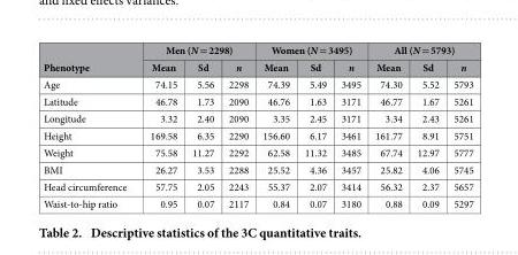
<table><thead><tr><td rowspan="2">Phenotype</td><td colspan="3">Men (N = 2298)</td><td colspan="3">Women (N = 3495)</td><td colspan="3">All (N = 5793)</td></tr><tr><td>Mean</td><td>Sd</td><td>n</td><td>Mean</td><td>Sd</td><td>n</td><td>Mean</td><td>Sd</td><td>n</td></tr></thead><tbody><tr><td>Age</td><td>74.15</td><td>5.56</td><td>2298</td><td>74.39</td><td>5.49</td><td>3495</td><td>74.30</td><td>5.52</td><td>5793</td></tr><tr><td>Latitude</td><td>46.78</td><td>1.73</td><td>2090</td><td>46.76</td><td>1.63</td><td>3171</td><td>46.77</td><td>1.67</td><td>5261</td></tr><tr><td>Longitude</td><td>3.32</td><td>2.40</td><td>2090</td><td>3.35</td><td>2.45</td><td>3171</td><td>3.34</td><td>2.43</td><td>5261</td></tr><tr><td>Height</td><td>169.58</td><td>6.35</td><td>2290</td><td>156.60</td><td>6.17</td><td>3461</td><td>161.77</td><td>8.91</td><td>5751</td></tr><tr><td>Weight</td><td>75.58</td><td>11.27</td><td>2292</td><td>62.58</td><td>11.32</td><td>3485</td><td>67.74</td><td>12.97</td><td>5777</td></tr><tr><td>BMI</td><td>26.27</td><td>3.53</td><td>2288</td><td>25.52</td><td>4.36</td><td>3457</td><td>25.82</td><td>4.06</td><td>5745</td></tr><tr><td>Head circumference</td><td>57.75</td><td>2.05</td><td>2243</td><td>55.37</td><td>2.07</td><td>3414</td><td>56.32</td><td>2.37</td><td>5657</td></tr><tr><td>Waist-to-hip ratio</td><td>0.95</td><td>0.07</td><td>2117</td><td>0.84</td><td>0.07</td><td>3180</td><td>0.88</td><td>0.09</td><td>5297</td></tr></tbody></table>